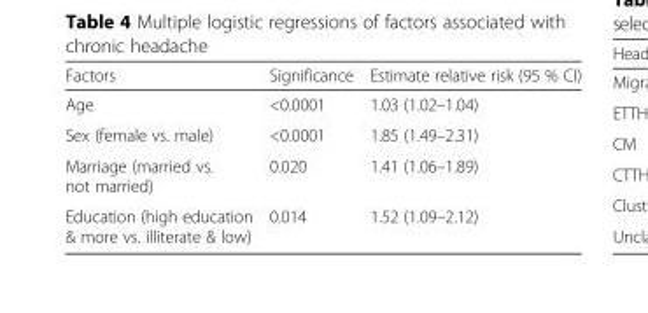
<table><thead><tr><td>Factors</td><td>Significance</td><td>Estimate relative risk (95 % CI)</td></tr></thead><tbody><tr><td>Age</td><td>&lt;0.0001</td><td>1.03 (1.02–1.04)</td></tr><tr><td>Sex (female vs. male)</td><td>&lt;0.0001</td><td>1.85 (1.49–2.31)</td></tr><tr><td>Marriage (married vs. not married)</td><td>0.020</td><td>1.41 (1.06–1.89)</td></tr><tr><td>Education (high education &amp; more vs. illiterate &amp; low)</td><td>0.014</td><td>1.52 (1.09–2.12)</td></tr></tbody></table>